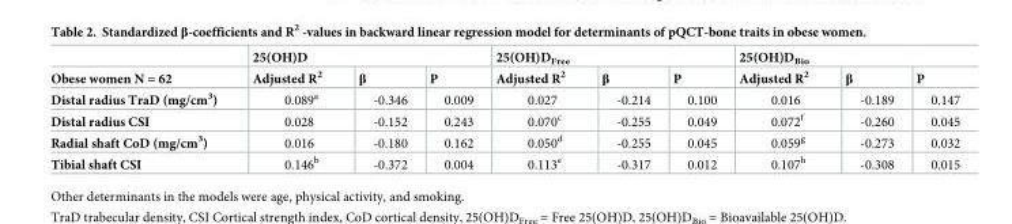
<table><thead><tr><td rowspan="2">Obese women N = 62</td><td colspan="3">25(OH)D</td><td colspan="3">25(OH)D<sub>Free</sub></td><td colspan="3">25(OH)D<sub>Bio</sub></td></tr><tr><td>Adjusted R<sup>2</sup></td><td>β</td><td>P</td><td>Adjusted R<sup>2</sup></td><td>β</td><td>P</td><td>Adjusted R<sup>2</sup></td><td>β</td><td>P</td></tr></thead><tbody><tr><td>Distal radius TraD (mg/cm<sup>3</sup>)</td><td>0.089<sup>a</sup></td><td>-0.346</td><td>0.009</td><td>0.027</td><td>-0.214</td><td>0.100</td><td>0.016</td><td>-0.189</td><td>0.147</td></tr><tr><td>Distal radius CSI</td><td>0.028</td><td>-0.152</td><td>0.243</td><td>0.070<sup>c</sup></td><td>-0.255</td><td>0.049</td><td>0.072<sup>f</sup></td><td>-0.260</td><td>0.045</td></tr><tr><td>Radial shaft CoD (mg/cm<sup>3</sup>)</td><td>0.016</td><td>-0.180</td><td>0.162</td><td>0.050<sup>d</sup></td><td>-0.255</td><td>0.045</td><td>0.059<sup>g</sup></td><td>-0.273</td><td>0.032</td></tr><tr><td>Tibial shaft CSI</td><td>0.146<sup>b</sup></td><td>-0.372</td><td>0.004</td><td>0.113<sup>e</sup></td><td>-0.317</td><td>0.012</td><td>0.107<sup>h</sup></td><td>-0.308</td><td>0.015</td></tr></tbody></table>